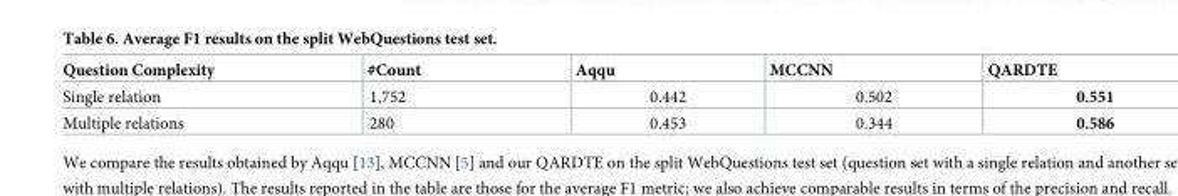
<table><thead><tr><td>Question Complexity</td><td>#Count</td><td>Aqqu</td><td>MCCNN</td><td>QARDTE</td></tr></thead><tbody><tr><td>Single relation</td><td>1,752</td><td>0.442</td><td>0.502</td><td>0.551</td></tr><tr><td>Multiple relations</td><td>280</td><td>0.453</td><td>0.344</td><td>0.586</td></tr></tbody></table>